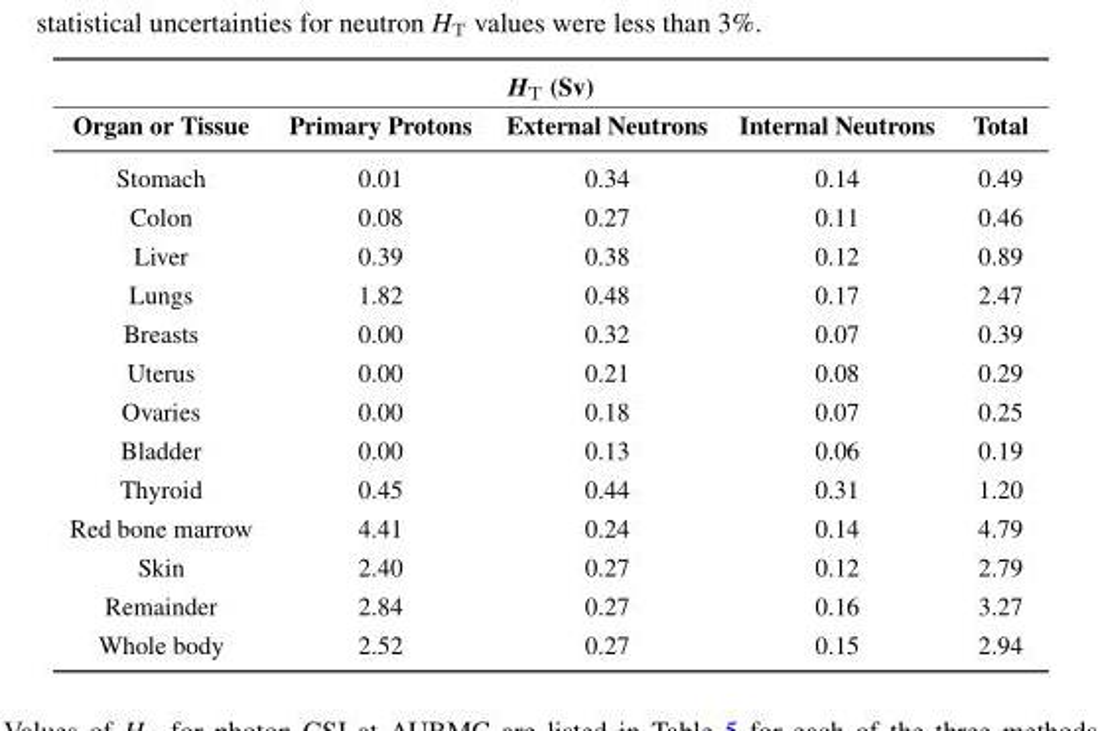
<table><thead><tr><td colspan="5">H<sub>T</sub> (Sv)</td></tr><tr><td>Organ or Tissue</td><td>Primary Protons</td><td>External Neutrons</td><td>Internal Neutrons</td><td>Total</td></tr></thead><tbody><tr><td>Stomach</td><td>0.01</td><td>0.34</td><td>0.14</td><td>0.49</td></tr><tr><td>Colon</td><td>0.08</td><td>0.27</td><td>0.11</td><td>0.46</td></tr><tr><td>Liver</td><td>0.39</td><td>0.38</td><td>0.12</td><td>0.89</td></tr><tr><td>Lungs</td><td>1.82</td><td>0.48</td><td>0.17</td><td>2.47</td></tr><tr><td>Breasts</td><td>0.00</td><td>0.32</td><td>0.07</td><td>0.39</td></tr><tr><td>Uterus</td><td>0.00</td><td>0.21</td><td>0.08</td><td>0.29</td></tr><tr><td>Ovaries</td><td>0.00</td><td>0.18</td><td>0.07</td><td>0.25</td></tr><tr><td>Bladder</td><td>0.00</td><td>0.13</td><td>0.06</td><td>0.19</td></tr><tr><td>Thyroid</td><td>0.45</td><td>0.44</td><td>0.31</td><td>1.20</td></tr><tr><td>Red bone marrow</td><td>4.41</td><td>0.24</td><td>0.14</td><td>4.79</td></tr><tr><td>Skin</td><td>2.40</td><td>0.27</td><td>0.12</td><td>2.79</td></tr><tr><td>Remainder</td><td>2.84</td><td>0.27</td><td>0.16</td><td>3.27</td></tr><tr><td>Whole body</td><td>2.52</td><td>0.27</td><td>0.15</td><td>2.94</td></tr></tbody></table>